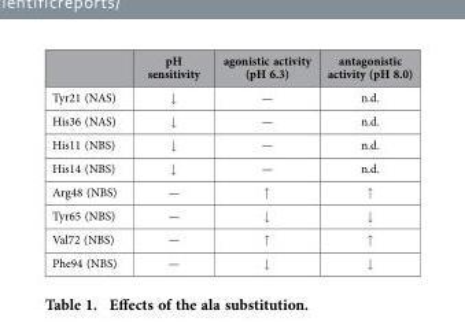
<table><thead><tr><td></td><td>pH sensitivity</td><td>agonistic activity (pH 6.3)</td><td>antagonistic activity (pH 8.0)</td></tr></thead><tbody><tr><td>Tyr21 (NAS)</td><td>↓</td><td>—</td><td>n.d.</td></tr><tr><td>His36 (NAS)</td><td>↓</td><td>—</td><td>n.d.</td></tr><tr><td>His11 (NBS)</td><td>↓</td><td>—</td><td>n.d.</td></tr><tr><td>His14 (NBS)</td><td>↓</td><td>—</td><td>n.d.</td></tr><tr><td>Arg48 (NBS)</td><td>—</td><td>↑</td><td>↑</td></tr><tr><td>Tyr65 (NBS)</td><td>—</td><td>↓</td><td>↓</td></tr><tr><td>Val72 (NBS)</td><td>—</td><td>↑</td><td>↑</td></tr><tr><td>Phe94 (NBS)</td><td>—</td><td>↓</td><td>↓</td></tr></tbody></table>